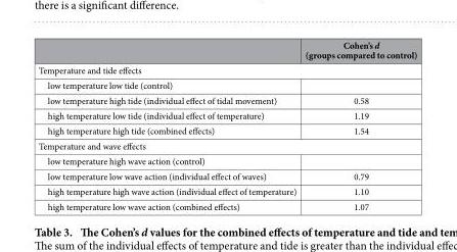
<table><thead><tr><td></td><td>Cohen’s d (groups compared to control)</td></tr></thead><tbody><tr><td colspan="2">Temperature and tide effects</td></tr><tr><td colspan="2">low temperature low tide (control)</td></tr><tr><td>low temperature high tide (individual effect of tidal movement)</td><td>0.58</td></tr><tr><td>high temperature low tide (individual effect of temperature)</td><td>1.19</td></tr><tr><td>high temperature high tide (combined effects)</td><td>1.54</td></tr><tr><td colspan="2">Temperature and wave effects</td></tr><tr><td colspan="2">low temperature high wave action (control)</td></tr><tr><td>low temperature low wave action (individual effect of waves)</td><td>0.79</td></tr><tr><td>high temperature high wave action (individual effect of temperature)</td><td>1.10</td></tr><tr><td>high temperature low wave action (combined effects)</td><td>1.07</td></tr></tbody></table>